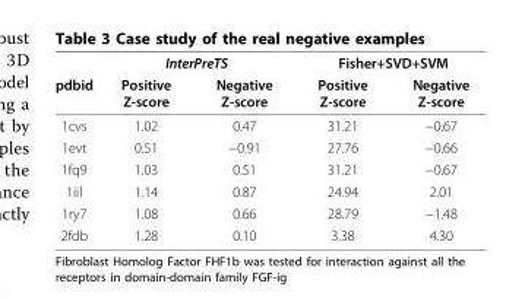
<table><thead><tr><td rowspan="2">pdbid</td><td colspan="2">InterPreTS</td><td colspan="2">Fisher+SVD+SVM</td></tr><tr><td>Positive Z-score</td><td>Negative Z-score</td><td>Positive Z-score</td><td>Negative Z-score</td></tr></thead><tbody><tr><td>1cvs</td><td>1.02</td><td>0.47</td><td>31.21</td><td>−0.67</td></tr><tr><td>1evt</td><td>0.51</td><td>−0.91</td><td>27.76</td><td>−0.66</td></tr><tr><td>1fq9</td><td>1.03</td><td>0.51</td><td>31.21</td><td>−0.67</td></tr><tr><td>1iil</td><td>1.14</td><td>0.87</td><td>24.94</td><td>2.01</td></tr><tr><td>1ry7</td><td>1.08</td><td>0.66</td><td>28.79</td><td>−1.48</td></tr><tr><td>2fdb</td><td>1.28</td><td>0.10</td><td>3.38</td><td>4.30</td></tr></tbody></table>